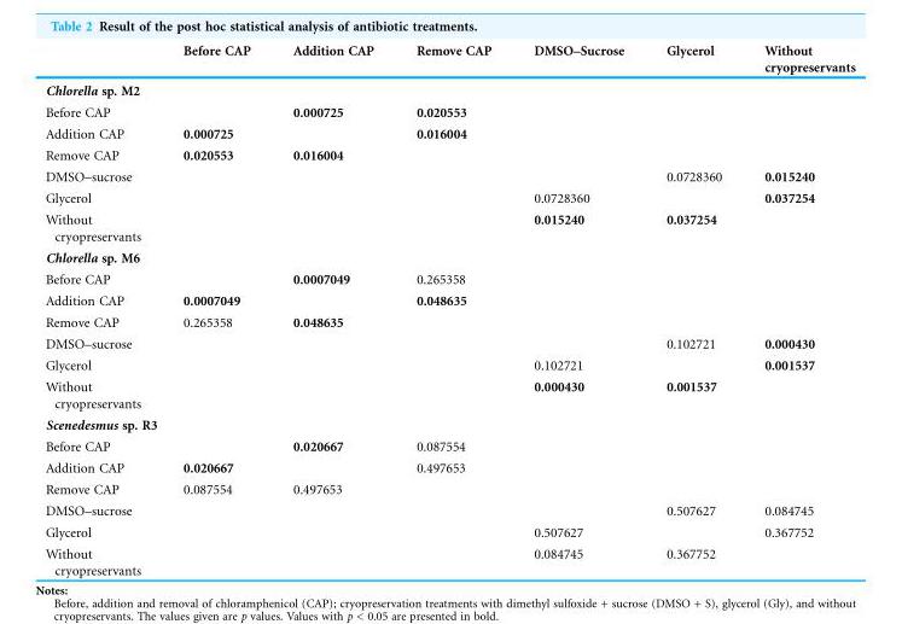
<table><thead><tr><td></td><td>Before CAP</td><td>Addition CAP</td><td>Remove CAP</td><td>DMSO–Sucrose</td><td>Glycerol</td><td>Without cryopreservants</td></tr></thead><tbody><tr><td colspan="7">Chlorella sp. M2</td></tr><tr><td>Before CAP</td><td></td><td>0.000725</td><td>0.020553</td><td></td><td></td><td></td></tr><tr><td>Addition CAP</td><td>0.000725</td><td></td><td>0.016004</td><td></td><td></td><td></td></tr><tr><td>Remove CAP</td><td>0.020553</td><td>0.016004</td><td></td><td></td><td></td><td></td></tr><tr><td>DMSO–sucrose</td><td></td><td></td><td></td><td></td><td>0.0728360</td><td>0.015240</td></tr><tr><td>Glycerol</td><td></td><td></td><td></td><td>0.0728360</td><td></td><td>0.037254</td></tr><tr><td>Without cryopreservants</td><td></td><td></td><td></td><td>0.015240</td><td>0.037254</td><td></td></tr><tr><td colspan="7">Chlorella sp. M6</td></tr><tr><td>Before CAP</td><td></td><td>0.0007049</td><td>0.265358</td><td></td><td></td><td></td></tr><tr><td>Addition CAP</td><td>0.0007049</td><td></td><td>0.048635</td><td></td><td></td><td></td></tr><tr><td>Remove CAP</td><td>0.265358</td><td>0.048635</td><td></td><td></td><td></td><td></td></tr><tr><td>DMSO–sucrose</td><td></td><td></td><td></td><td></td><td>0.102721</td><td>0.000430</td></tr><tr><td>Glycerol</td><td></td><td></td><td></td><td>0.102721</td><td></td><td>0.001537</td></tr><tr><td>Without cryopreservants</td><td></td><td></td><td></td><td>0.000430</td><td>0.001537</td><td></td></tr><tr><td colspan="7">Scenedesmus sp. R3</td></tr><tr><td>Before CAP</td><td></td><td>0.020667</td><td>0.087554</td><td></td><td></td><td></td></tr><tr><td>Addition CAP</td><td>0.020667</td><td></td><td>0.497653</td><td></td><td></td><td></td></tr><tr><td>Remove CAP</td><td>0.087554</td><td>0.497653</td><td></td><td></td><td></td><td></td></tr><tr><td>DMSO–sucrose</td><td></td><td></td><td></td><td></td><td>0.507627</td><td>0.084745</td></tr><tr><td>Glycerol</td><td></td><td></td><td></td><td>0.507627</td><td></td><td>0.367752</td></tr><tr><td>Without cryopreservants</td><td></td><td></td><td></td><td>0.084745</td><td>0.367752</td><td></td></tr></tbody></table>